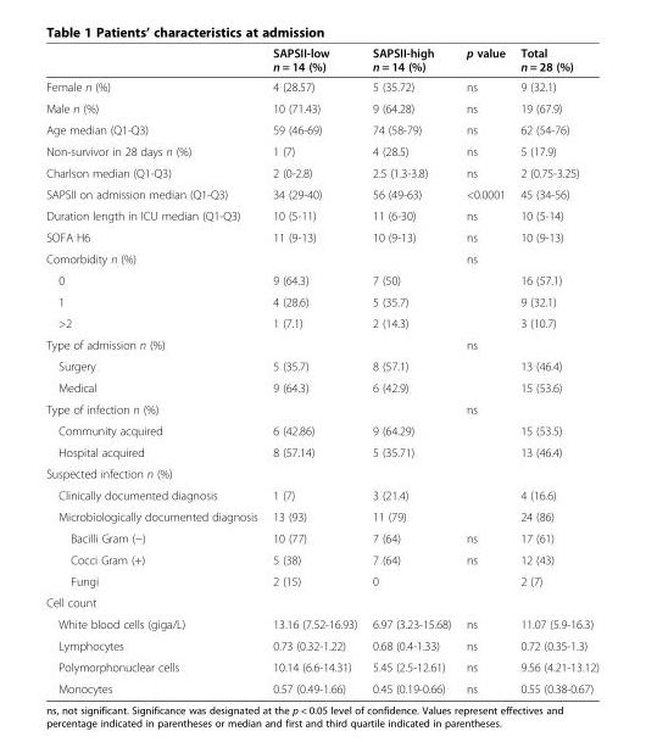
<table><thead><tr><td></td><td>SAPSII-low n = 14 (%)</td><td>SAPSII-high n = 14 (%)</td><td>p value</td><td>Total n = 28 (%)</td></tr></thead><tbody><tr><td>Female n (%)</td><td>4 (28.57)</td><td>5 (35.72)</td><td>ns</td><td>9 (32.1)</td></tr><tr><td>Male n (%)</td><td>10 (71.43)</td><td>9 (64.28)</td><td>ns</td><td>19 (67.9)</td></tr><tr><td>Age median (Q1-Q3)</td><td>59 (46-69)</td><td>74 (58-79)</td><td>ns</td><td>62 (54-76)</td></tr><tr><td>Non-survivor in 28 days n (%)</td><td>1 (7)</td><td>4 (28.5)</td><td>ns</td><td>5 (17.9)</td></tr><tr><td>Charlson median (Q1-Q3)</td><td>2 (0-2.8)</td><td>2.5 (1.3-3.8)</td><td>ns</td><td>2 (0.75-3.25)</td></tr><tr><td>SAPSII on admission median (Q1-Q3)</td><td>34 (29-40)</td><td>56 (49-63)</td><td>&lt;0.0001</td><td>45 (34-56)</td></tr><tr><td>Duration length in ICU median (Q1-Q3)</td><td>10 (5-11)</td><td>11 (6-30)</td><td>ns</td><td>10 (5-14)</td></tr><tr><td>SOFA H6</td><td>11 (9-13)</td><td>10 (9-13)</td><td>ns</td><td>10 (9-13)</td></tr><tr><td>Comorbidity n (%)</td><td></td><td></td><td>ns</td><td></td></tr><tr><td>0</td><td>9 (64.3)</td><td>7 (50)</td><td></td><td>16 (57.1)</td></tr><tr><td>1</td><td>4 (28.6)</td><td>5 (35.7)</td><td></td><td>9 (32.1)</td></tr><tr><td>&gt;2</td><td>1 (7.1)</td><td>2 (14.3)</td><td></td><td>3 (10.7)</td></tr><tr><td>Type of admission n (%)</td><td></td><td></td><td>ns</td><td></td></tr><tr><td>Surgery</td><td>5 (35.7)</td><td>8 (57.1)</td><td></td><td>13 (46.4)</td></tr><tr><td>Medical</td><td>9 (64.3)</td><td>6 (42.9)</td><td></td><td>15 (53.6)</td></tr><tr><td>Type of infection n (%)</td><td></td><td></td><td>ns</td><td></td></tr><tr><td>Community acquired</td><td>6 (42.86)</td><td>9 (64.29)</td><td></td><td>15 (53.5)</td></tr><tr><td>Hospital acquired</td><td>8 (57.14)</td><td>5 (35.71)</td><td></td><td>13 (46.4)</td></tr><tr><td colspan="5">Suspected infection n (%)</td></tr><tr><td>Clinically documented diagnosis</td><td>1 (7)</td><td>3 (21.4)</td><td></td><td>4 (16.6)</td></tr><tr><td>Microbiologically documented diagnosis</td><td>13 (93)</td><td>11 (79)</td><td></td><td>24 (86)</td></tr><tr><td>Bacilli Gram (−)</td><td>10 (77)</td><td>7 (64)</td><td>ns</td><td>17 (61)</td></tr><tr><td>Cocci Gram (+)</td><td>5 (38)</td><td>7 (64)</td><td>ns</td><td>12 (43)</td></tr><tr><td>Fungi</td><td>2 (15)</td><td>0</td><td></td><td>2 (7)</td></tr><tr><td colspan="5">Cell count</td></tr><tr><td>White blood cells (giga/L)</td><td>13.16 (7.52-16.93)</td><td>6.97 (3.23-15.68)</td><td>ns</td><td>11.07 (5.9-16.3)</td></tr><tr><td>Lymphocytes</td><td>0.73 (0.32-1.22)</td><td>0.68 (0.4-1.33)</td><td>ns</td><td>0.72 (0.35-1.3)</td></tr><tr><td>Polymorphonuclear cells</td><td>10.14 (6.6-14.31)</td><td>5.45 (2.5-12.61)</td><td>ns</td><td>9.56 (4.21-13.12)</td></tr><tr><td>Monocytes</td><td>0.57 (0.49-1.66)</td><td>0.45 (0.19-0.66)</td><td>ns</td><td>0.55 (0.38-0.67)</td></tr></tbody></table>